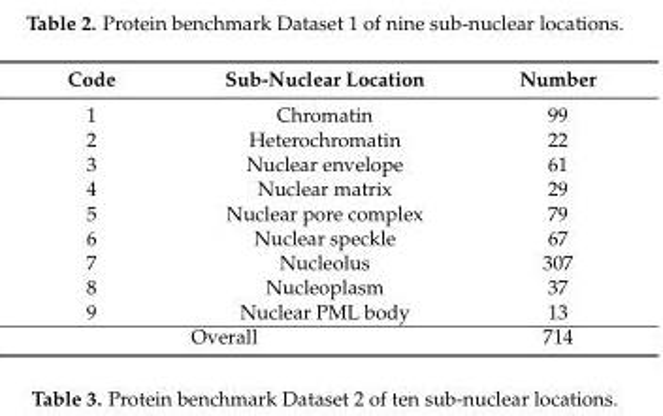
<table><thead><tr><td>Code</td><td>Sub-Nuclear Location</td><td>Number</td></tr></thead><tbody><tr><td>1</td><td>Chromatin</td><td>99</td></tr><tr><td>2</td><td>Heterochromatin</td><td>22</td></tr><tr><td>3</td><td>Nuclear envelope</td><td>61</td></tr><tr><td>4</td><td>Nuclear matrix</td><td>29</td></tr><tr><td>5</td><td>Nuclear pore complex</td><td>79</td></tr><tr><td>6</td><td>Nuclear speckle</td><td>67</td></tr><tr><td>7</td><td>Nucleolus</td><td>307</td></tr><tr><td>8</td><td>Nucleoplasm</td><td>37</td></tr><tr><td>9</td><td>Nuclear PML body</td><td>13</td></tr><tr><td colspan="2">Overall</td><td>714</td></tr></tbody></table>